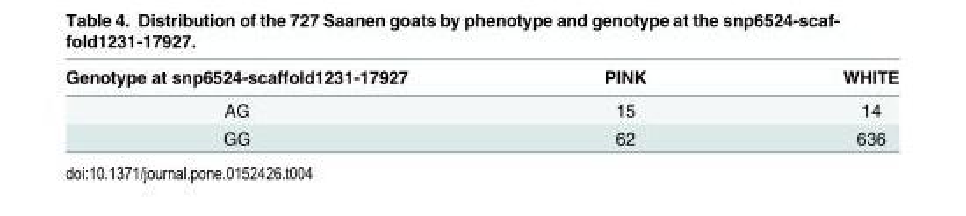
<table><thead><tr><td>Genotype at snp6524-scaffold1231-17927</td><td>PINK</td><td>WHITE</td></tr></thead><tbody><tr><td>AG</td><td>15</td><td>14</td></tr><tr><td>GG</td><td>62</td><td>636</td></tr></tbody></table>